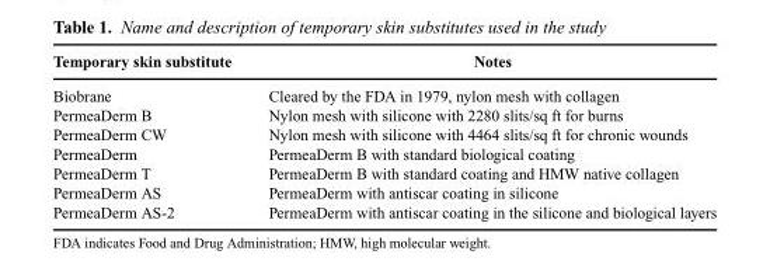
<table><thead><tr><td>Temporary skin substitute</td><td>Notes</td></tr></thead><tbody><tr><td>Biobrane</td><td>Cleared by the FDA in 1979, nylon mesh with collagen</td></tr><tr><td>PermeaDerm B</td><td>Nylon mesh with silicone with 2280 slits/sq ft for burns</td></tr><tr><td>PermeaDerm CW</td><td>Nylon mesh with silicone with 4464 slits/sq ft for chronic wounds</td></tr><tr><td>PermeaDerm</td><td>PermeaDerm B with standard biological coating</td></tr><tr><td>PermeaDerm T</td><td>PermeaDerm B with standard coating and HMW native collagen</td></tr><tr><td>PermeaDerm AS</td><td>PermeaDerm with antiscar coating in silicone</td></tr><tr><td>PermeaDerm AS-2</td><td>PermeaDerm with antiscar coating in the silicone and biological layers</td></tr></tbody></table>